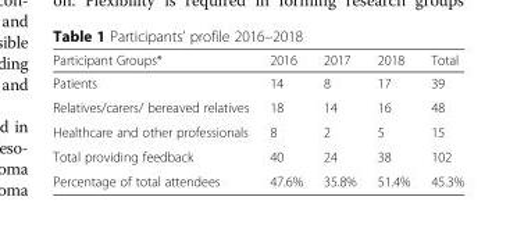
<table><thead><tr><td>Participant Groups*</td><td>2016</td><td>2017</td><td>2018</td><td>Total</td></tr></thead><tbody><tr><td>Patients</td><td>14</td><td>8</td><td>17</td><td>39</td></tr><tr><td>Relatives/carers/ bereaved relatives</td><td>18</td><td>14</td><td>16</td><td>48</td></tr><tr><td>Healthcare and other professionals</td><td>8</td><td>2</td><td>5</td><td>15</td></tr><tr><td>Total providing feedback</td><td>40</td><td>24</td><td>38</td><td>102</td></tr><tr><td>Percentage of total attendees</td><td>47.6%</td><td>35.8%</td><td>51.4%</td><td>45.3%</td></tr></tbody></table>